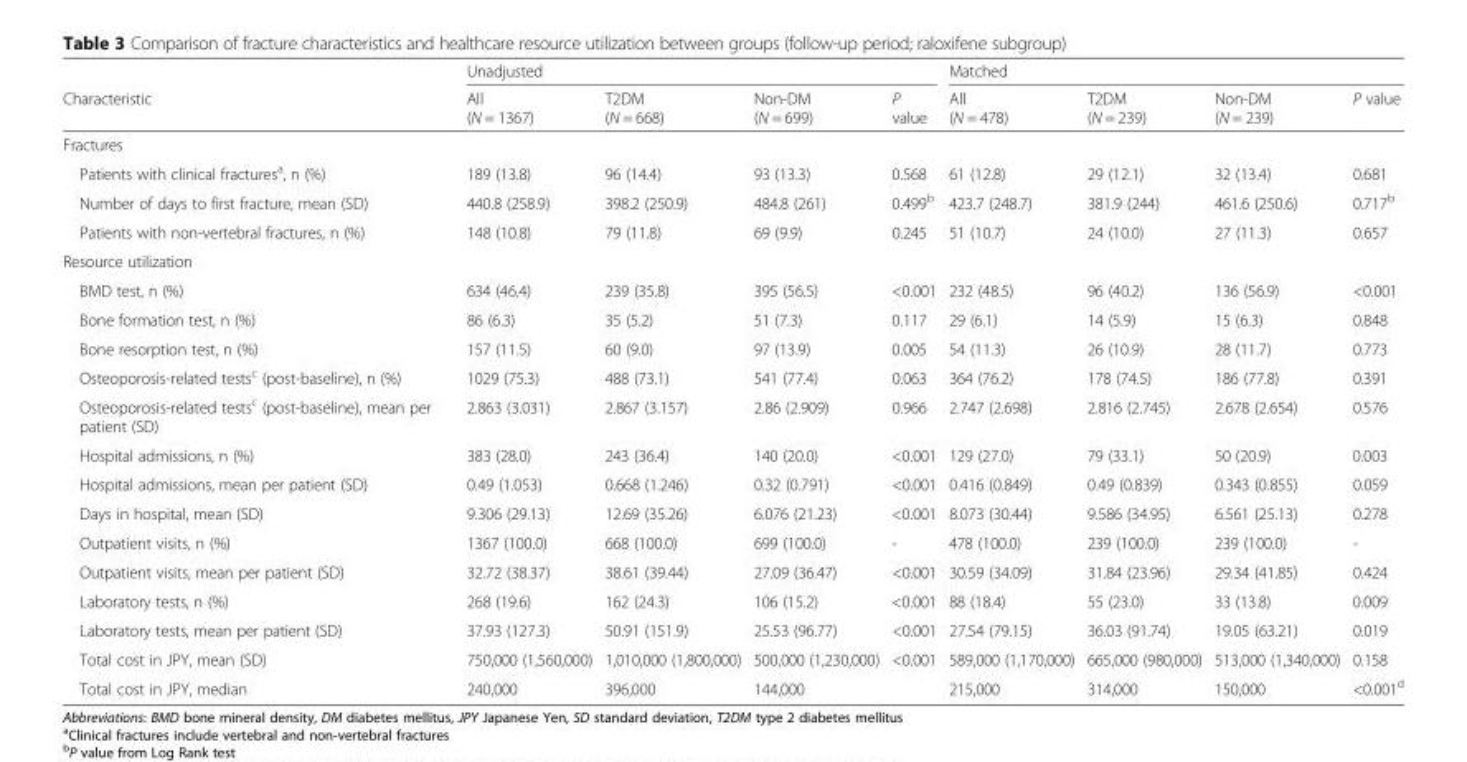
<table><thead><tr><td rowspan="2">Characteristic</td><td colspan="4">Unadjusted</td><td colspan="4">Matched</td></tr><tr><td>All (N = 1367)</td><td>T2DM (N = 668)</td><td>Non-DM (N = 699)</td><td>P value</td><td>All (N = 478)</td><td>T2DM (N = 239)</td><td>Non-DM (N = 239)</td><td>P value</td></tr></thead><tbody><tr><td colspan="9">Fractures</td></tr><tr><td>Patients with clinical fractures<sup>a</sup>, n (%)</td><td>189 (13.8)</td><td>96 (14.4)</td><td>93 (13.3)</td><td>0.568</td><td>61 (12.8)</td><td>29 (12.1)</td><td>32 (13.4)</td><td>0.681</td></tr><tr><td>Number of days to first fracture, mean (SD)</td><td>440.8 (258.9)</td><td>398.2 (250.9)</td><td>484.8 (261)</td><td>0.499<sup>b</sup></td><td>423.7 (248.7)</td><td>381.9 (244)</td><td>461.6 (250.6)</td><td>0.717<sup>b</sup></td></tr><tr><td>Patients with non-vertebral fractures, n (%)</td><td>148 (10.8)</td><td>79 (11.8)</td><td>69 (9.9)</td><td>0.245</td><td>51 (10.7)</td><td>24 (10.0)</td><td>27 (11.3)</td><td>0.657</td></tr><tr><td colspan="9">Resource utilization</td></tr><tr><td>BMD test, n (%)</td><td>634 (46.4)</td><td>239 (35.8)</td><td>395 (56.5)</td><td>&lt;0.001</td><td>232 (48.5)</td><td>96 (40.2)</td><td>136 (56.9)</td><td>&lt;0.001</td></tr><tr><td>Bone formation test, n (%)</td><td>86 (6.3)</td><td>35 (5.2)</td><td>51 (7.3)</td><td>0.117</td><td>29 (6.1)</td><td>14 (5.9)</td><td>15 (6.3)</td><td>0.848</td></tr><tr><td>Bone resorption test, n (%)</td><td>157 (11.5)</td><td>60 (9.0)</td><td>97 (13.9)</td><td>0.005</td><td>54 (11.3)</td><td>26 (10.9)</td><td>28 (11.7)</td><td>0.773</td></tr><tr><td>Osteoporosis-related tests<sup>c</sup> (post-baseline), n (%)</td><td>1029 (75.3)</td><td>488 (73.1)</td><td>541 (77.4)</td><td>0.063</td><td>364 (76.2)</td><td>178 (74.5)</td><td>186 (77.8)</td><td>0.391</td></tr><tr><td>Osteoporosis-related tests<sup>c</sup> (post-baseline), mean per patient (SD)</td><td>2.863 (3.031)</td><td>2.867 (3.157)</td><td>2.86 (2.909)</td><td>0.966</td><td>2.747 (2.698)</td><td>2.816 (2.745)</td><td>2.678 (2.654)</td><td>0.576</td></tr><tr><td>Hospital admissions, n (%)</td><td>383 (28.0)</td><td>243 (36.4)</td><td>140 (20.0)</td><td>&lt;0.001</td><td>129 (27.0)</td><td>79 (33.1)</td><td>50 (20.9)</td><td>0.003</td></tr><tr><td>Hospital admissions, mean per patient (SD)</td><td>0.49 (1.053)</td><td>0.668 (1.246)</td><td>0.32 (0.791)</td><td>&lt;0.001</td><td>0.416 (0.849)</td><td>0.49 (0.839)</td><td>0.343 (0.855)</td><td>0.059</td></tr><tr><td>Days in hospital, mean (SD)</td><td>9.306 (29.13)</td><td>12.69 (35.26)</td><td>6.076 (21.23)</td><td>&lt;0.001</td><td>8.073 (30.44)</td><td>9.586 (34.95)</td><td>6.561 (25.13)</td><td>0.278</td></tr><tr><td>Outpatient visits, n (%)</td><td>1367 (100.0)</td><td>668 (100.0)</td><td>699 (100.0)</td><td>-</td><td>478 (100.0)</td><td>239 (100.0)</td><td>239 (100.0)</td><td>-</td></tr><tr><td>Outpatient visits, mean per patient (SD)</td><td>32.72 (38.37)</td><td>38.61 (39.44)</td><td>27.09 (36.47)</td><td>&lt;0.001</td><td>30.59 (34.09)</td><td>31.84 (23.96)</td><td>29.34 (41.85)</td><td>0.424</td></tr><tr><td>Laboratory tests, n (%)</td><td>268 (19.6)</td><td>162 (24.3)</td><td>106 (15.2)</td><td>&lt;0.001</td><td>88 (18.4)</td><td>55 (23.0)</td><td>33 (13.8)</td><td>0.009</td></tr><tr><td>Laboratory tests, mean per patient (SD)</td><td>37.93 (127.3)</td><td>50.91 (151.9)</td><td>25.53 (96.77)</td><td>&lt;0.001</td><td>27.54 (79.15)</td><td>36.03 (91.74)</td><td>19.05 (63.21)</td><td>0.019</td></tr><tr><td>Total cost in JPY, mean (SD)</td><td>750,000 (1,560,000)</td><td>1,010,000 (1,800,000)</td><td>500,000 (1,230,000)</td><td>&lt;0.001</td><td>589,000 (1,170,000)</td><td>665,000 (980,000)</td><td>513,000 (1,340,000)</td><td>0.158</td></tr><tr><td>Total cost in JPY, median</td><td>240,000</td><td>396,000</td><td>144,000</td><td></td><td>215,000</td><td>314,000</td><td>150,000</td><td>&lt;0.001<sup>d</sup></td></tr></tbody></table>